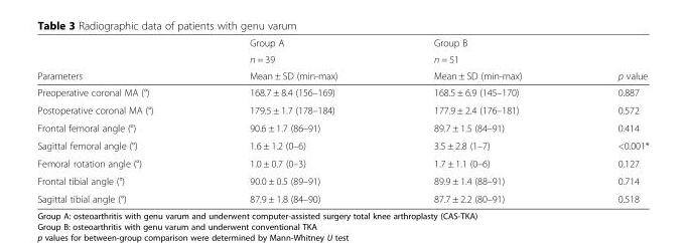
<table><thead><tr><td rowspan="3">Parameters</td><td rowspan="3">Group A n = 39 Mean ± SD (min-max)</td><td rowspan="3">Group B n = 51 Mean ± SD (min-max)</td><td rowspan="3">p value</td></tr><tr></tr><tr></tr></thead><tbody><tr><td>Preoperative coronal MA (°)</td><td>168.7 ± 8.4 (156–169)</td><td>168.5 ± 6.9 (145–170)</td><td>0.887</td></tr><tr><td>Postoperative coronal MA (°)</td><td>179.5 ± 1.7 (178–184)</td><td>177.9 ± 2.4 (176–181)</td><td>0.572</td></tr><tr><td>Frontal femoral angle (°)</td><td>90.6 ± 1.7 (86–91)</td><td>89.7 ± 1.5 (84–91)</td><td>0.414</td></tr><tr><td>Sagittal femoral angle (°)</td><td>1.6 ± 1.2 (0–6)</td><td>3.5 ± 2.8 (1–7)</td><td>&lt;0.001*</td></tr><tr><td>Femoral rotation angle (°)</td><td>1.0 ± 0.7 (0–3)</td><td>1.7 ± 1.1 (0–6)</td><td>0.127</td></tr><tr><td>Frontal tibial angle (°)</td><td>90.0 ± 0.5 (89–91)</td><td>89.9 ± 1.4 (88–91)</td><td>0.714</td></tr><tr><td>Sagittal tibial angle (°)</td><td>87.9 ± 1.8 (84–90)</td><td>87.7 ± 2.2 (80–91)</td><td>0.518</td></tr></tbody></table>